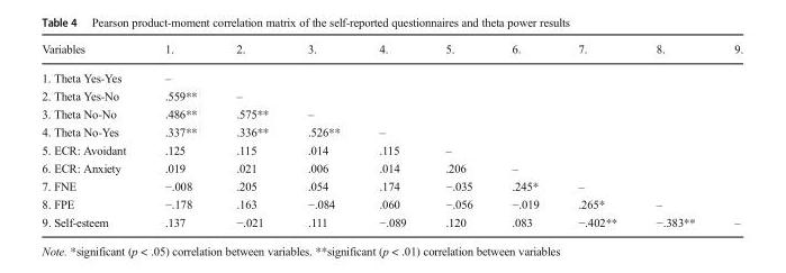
<table><thead><tr><td>Variables</td><td>1.</td><td>2.</td><td>3.</td><td>4.</td><td>5.</td><td>6.</td><td>7.</td><td>8.</td><td>9.</td></tr></thead><tbody><tr><td>1. Theta Yes-Yes</td><td>–</td><td></td><td></td><td></td><td></td><td></td><td></td><td></td><td></td></tr><tr><td>2. Theta Yes-No</td><td>.559**</td><td>–</td><td></td><td></td><td></td><td></td><td></td><td></td><td></td></tr><tr><td>3. Theta No-No</td><td>.486**</td><td>.575**</td><td>–</td><td></td><td></td><td></td><td></td><td></td><td></td></tr><tr><td>4. Theta No-Yes</td><td>.337**</td><td>.336**</td><td>.526**</td><td>–</td><td></td><td></td><td></td><td></td><td></td></tr><tr><td>5. ECR: Avoidant</td><td>.125</td><td>.115</td><td>.014</td><td>.115</td><td>–</td><td></td><td></td><td></td><td></td></tr><tr><td>6. ECR: Anxiety</td><td>.019</td><td>.021</td><td>.006</td><td>.014</td><td>.206</td><td>–</td><td></td><td></td><td></td></tr><tr><td>7. FNE</td><td>−.008</td><td>.205</td><td>.054</td><td>.174</td><td>−.035</td><td>.245*</td><td>–</td><td></td><td></td></tr><tr><td>8. FPE</td><td>−.178</td><td>.163</td><td>−.084</td><td>.060</td><td>−.056</td><td>−.019</td><td>.265*</td><td>–</td><td></td></tr><tr><td>9. Self-esteem</td><td>.137</td><td>−.021</td><td>.111</td><td>−.089</td><td>.120</td><td>.083</td><td>−.402**</td><td>−.383**</td><td>–</td></tr></tbody></table>